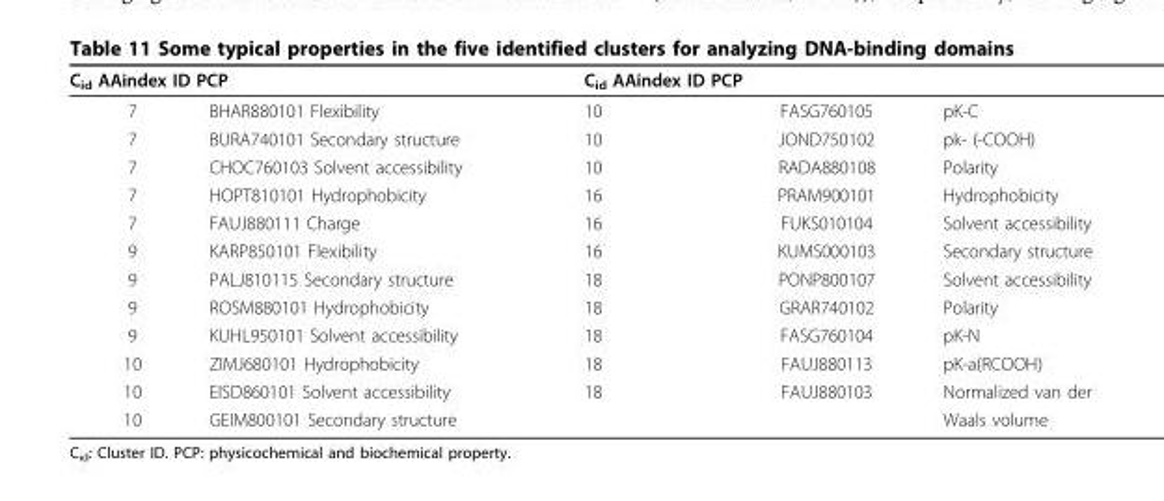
<table><thead><tr><td colspan="2">C<sub>id</sub> AAindex ID PCP</td><td colspan="3">C<sub>id</sub> AAindex ID PCP</td></tr><tr><td>7</td><td>BHAR880101 Flexibility</td><td>10</td><td>FASG760105</td><td>pK-C</td></tr></thead><tbody><tr><td>7</td><td>BURA740101 Secondary structure</td><td>10</td><td>JOND750102</td><td>pk- (-COOH)</td></tr><tr><td>7</td><td>CHOC760103 Solvent accessibility</td><td>10</td><td>RADA880108</td><td>Polarity</td></tr><tr><td>7</td><td>HOPT810101 Hydrophobicity</td><td>16</td><td>PRAM900101</td><td>Hydrophobicity</td></tr><tr><td>7</td><td>FAUJ880111 Charge</td><td>16</td><td>FUKS010104</td><td>Solvent accessibility</td></tr><tr><td>9</td><td>KARP850101 Flexibility</td><td>16</td><td>KUMS000103</td><td>Secondary structure</td></tr><tr><td>9</td><td>PALJ810115 Secondary structure</td><td>18</td><td>PONP800107</td><td>Solvent accessibility</td></tr><tr><td>9</td><td>ROSM880101 Hydrophobicity</td><td>18</td><td>GRAR740102</td><td>Polarity</td></tr><tr><td>9</td><td>KUHL950101 Solvent accessibility</td><td>18</td><td>FASG760104</td><td>pK-N</td></tr><tr><td>10</td><td>ZIMJ680101 Hydrophobicity</td><td>18</td><td>FAUJ880113</td><td>pK-a(RCOOH)</td></tr><tr><td>10</td><td>EISD860101 Solvent accessibility</td><td>18</td><td>FAUJ880103</td><td>Normalized van der</td></tr><tr><td>10</td><td>GEIM800101 Secondary structure</td><td></td><td></td><td>Waals volume</td></tr></tbody></table>